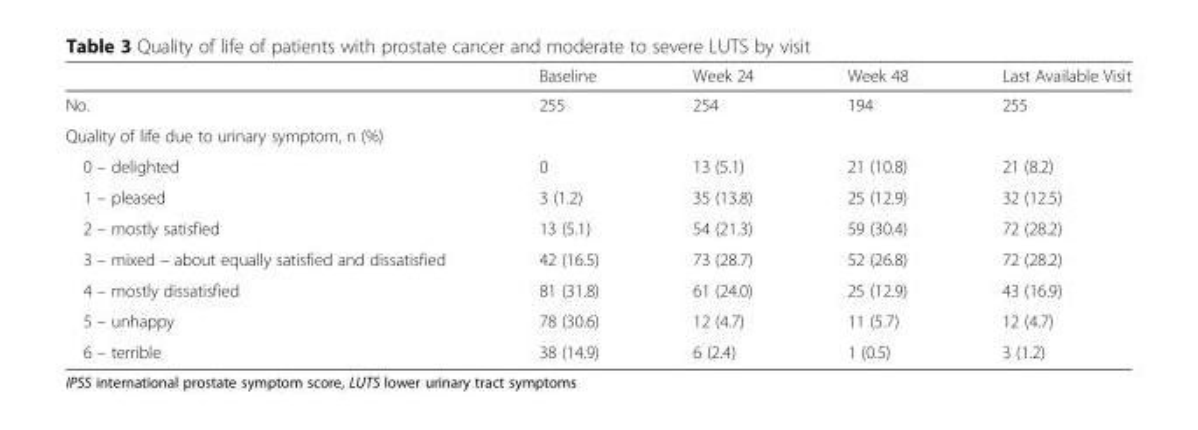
<table><thead><tr><td></td><td>Baseline</td><td>Week 24</td><td>Week 48</td><td>Last Available Visit</td></tr></thead><tbody><tr><td>No.</td><td>255</td><td>254</td><td>194</td><td>255</td></tr><tr><td colspan="5">Quality of life due to urinary symptom, n (%)</td></tr><tr><td>0 – delighted</td><td>0</td><td>13 (5.1)</td><td>21 (10.8)</td><td>21 (8.2)</td></tr><tr><td>1 – pleased</td><td>3 (1.2)</td><td>35 (13.8)</td><td>25 (12.9)</td><td>32 (12.5)</td></tr><tr><td>2 – mostly satisfied</td><td>13 (5.1)</td><td>54 (21.3)</td><td>59 (30.4)</td><td>72 (28.2)</td></tr><tr><td>3 – mixed – about equally satisfied and dissatisfied</td><td>42 (16.5)</td><td>73 (28.7)</td><td>52 (26.8)</td><td>72 (28.2)</td></tr><tr><td>4 – mostly dissatisfied</td><td>81 (31.8)</td><td>61 (24.0)</td><td>25 (12.9)</td><td>43 (16.9)</td></tr><tr><td>5 – unhappy</td><td>78 (30.6)</td><td>12 (4.7)</td><td>11 (5.7)</td><td>12 (4.7)</td></tr><tr><td>6 – terrible</td><td>38 (14.9)</td><td>6 (2.4)</td><td>1 (0.5)</td><td>3 (1.2)</td></tr></tbody></table>